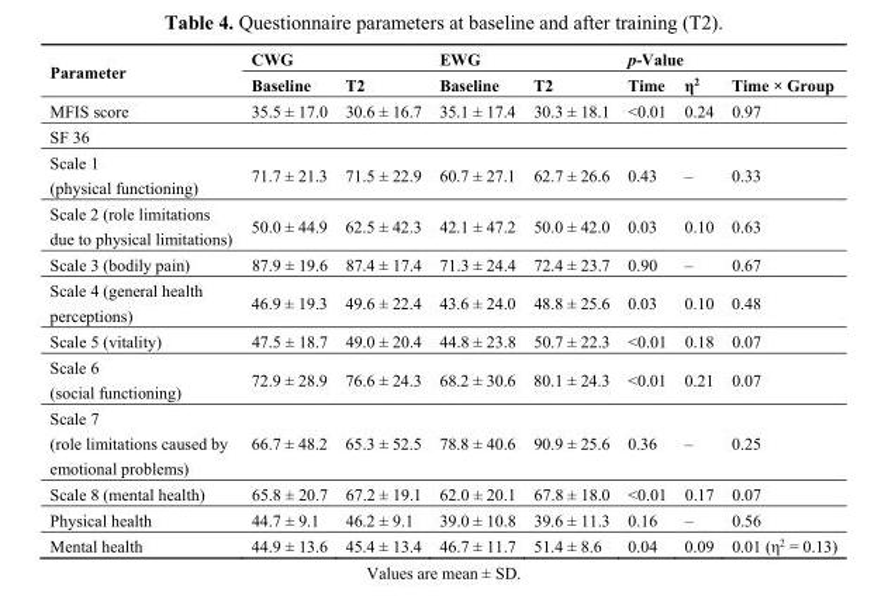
<table><thead><tr><td rowspan="2">Parameter</td><td colspan="2">CWG</td><td colspan="2">EWG</td><td colspan="3">p-Value</td></tr><tr><td>Baseline</td><td>T2</td><td>Baseline</td><td>T2</td><td>Time</td><td>η<sup>2</sup></td><td>Time × Group</td></tr></thead><tbody><tr><td>MFIS score</td><td>35.5 ± 17.0</td><td>30.6 ± 16.7</td><td>35.1 ± 17.4</td><td>30.3 ± 18.1</td><td>&lt;0.01</td><td>0.24</td><td>0.97</td></tr><tr><td colspan="8">SF 36</td></tr><tr><td>Scale 1 (physical functioning)</td><td>71.7 ± 21.3</td><td>71.5 ± 22.9</td><td>60.7 ± 27.1</td><td>62.7 ± 26.6</td><td>0.43</td><td>–</td><td>0.33</td></tr><tr><td>Scale 2 (role limitations due to physical limitations)</td><td>50.0 ± 44.9</td><td>62.5 ± 42.3</td><td>42.1 ± 47.2</td><td>50.0 ± 42.0</td><td>0.03</td><td>0.10</td><td>0.63</td></tr><tr><td>Scale 3 (bodily pain)</td><td>87.9 ± 19.6</td><td>87.4 ± 17.4</td><td>71.3 ± 24.4</td><td>72.4 ± 23.7</td><td>0.90</td><td>–</td><td>0.67</td></tr><tr><td>Scale 4 (general health perceptions)</td><td>46.9 ± 19.3</td><td>49.6 ± 22.4</td><td>43.6 ± 24.0</td><td>48.8 ± 25.6</td><td>0.03</td><td>0.10</td><td>0.48</td></tr><tr><td>Scale 5 (vitality)</td><td>47.5 ± 18.7</td><td>49.0 ± 20.4</td><td>44.8 ± 23.8</td><td>50.7 ± 22.3</td><td>&lt;0.01</td><td>0.18</td><td>0.07</td></tr><tr><td>Scale 6 (social functioning)</td><td>72.9 ± 28.9</td><td>76.6 ± 24.3</td><td>68.2 ± 30.6</td><td>80.1 ± 24.3</td><td>&lt;0.01</td><td>0.21</td><td>0.07</td></tr><tr><td>Scale 7 (role limitations caused by emotional problems)</td><td>66.7 ± 48.2</td><td>65.3 ± 52.5</td><td>78.8 ± 40.6</td><td>90.9 ± 25.6</td><td>0.36</td><td>–</td><td>0.25</td></tr><tr><td>Scale 8 (mental health)</td><td>65.8 ± 20.7</td><td>67.2 ± 19.1</td><td>62.0 ± 20.1</td><td>67.8 ± 18.0</td><td>&lt;0.01</td><td>0.17</td><td>0.07</td></tr><tr><td>Physical health</td><td>44.7 ± 9.1</td><td>46.2 ± 9.1</td><td>39.0 ± 10.8</td><td>39.6 ± 11.3</td><td>0.16</td><td>–</td><td>0.56</td></tr><tr><td>Mental health</td><td>44.9 ± 13.6</td><td>45.4 ± 13.4</td><td>46.7 ± 11.7</td><td>51.4 ± 8.6</td><td>0.04</td><td>0.09</td><td>0.01 (η<sup>2</sup> = 0.13)</td></tr></tbody></table>